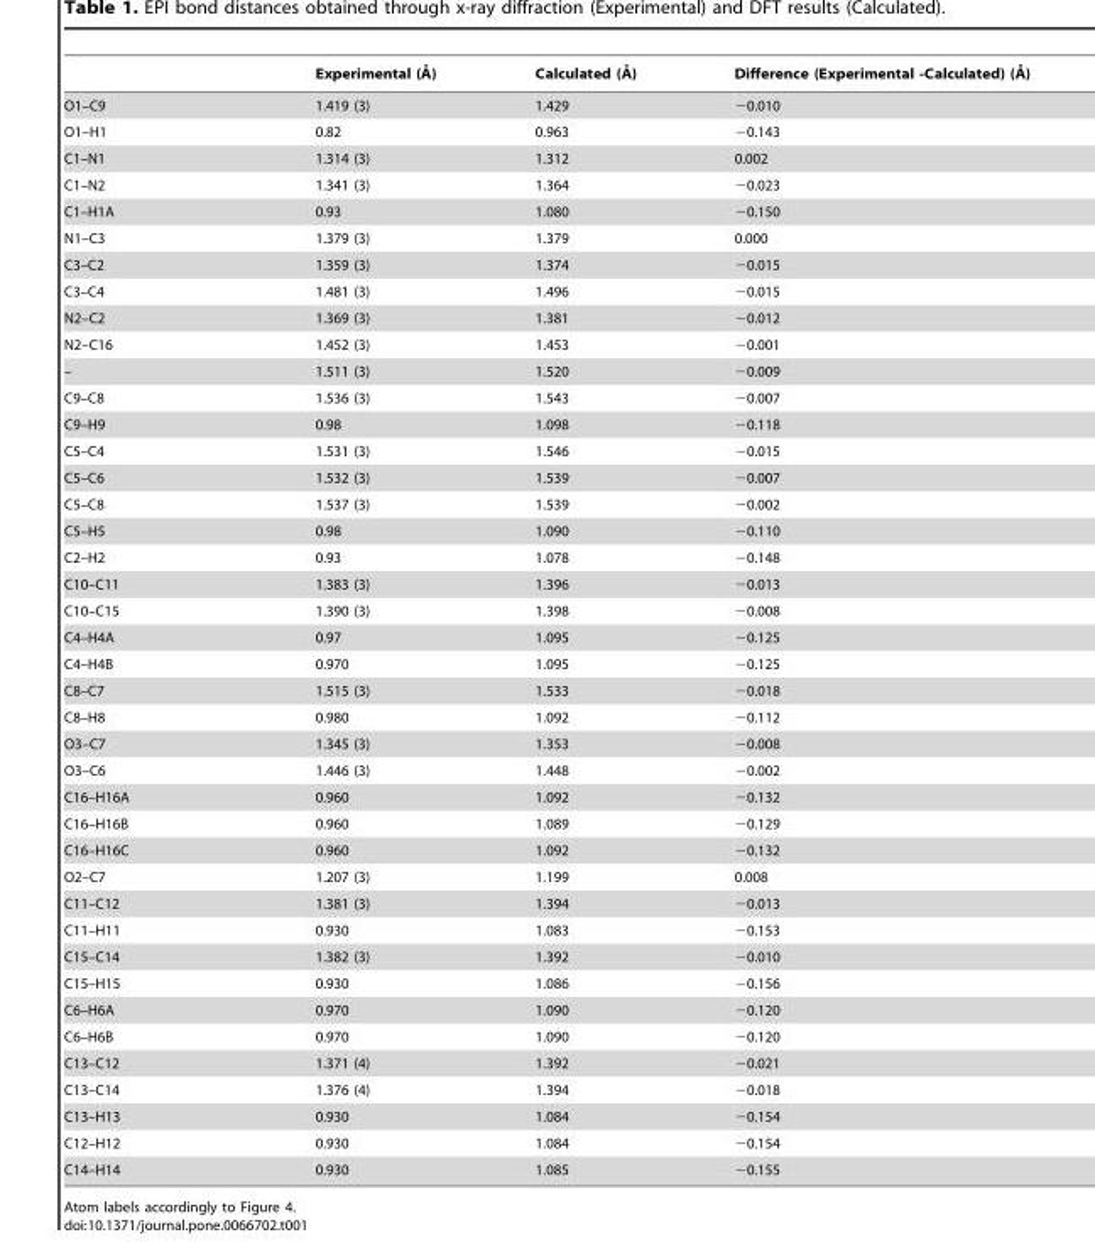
<table><thead><tr><td></td><td>Experimental (A˚)</td><td>Calculated (A˚ )</td><td>Difference (Experimental -Calculated) (A˚ )</td></tr></thead><tbody><tr><td>O1–C9</td><td>1.419 (3)</td><td>1.429</td><td>−0.010</td></tr><tr><td>O1–H1</td><td>0.82</td><td>0.963</td><td>−0.143</td></tr><tr><td>C1–N1</td><td>1.314 (3)</td><td>1.312</td><td>0.002</td></tr><tr><td>C1–N2</td><td>1.341 (3)</td><td>1.364</td><td>−0.023</td></tr><tr><td>C1–H1A</td><td>0.93</td><td>1.080</td><td>−0.150</td></tr><tr><td>N1–C3</td><td>1.379 (3)</td><td>1.379</td><td>0.000</td></tr><tr><td>C3–C2</td><td>1.359 (3)</td><td>1.374</td><td>−0.015</td></tr><tr><td>C3–C4</td><td>1.481 (3)</td><td>1.496</td><td>−0.015</td></tr><tr><td>N2–C2</td><td>1.369 (3)</td><td>1.381</td><td>−0.012</td></tr><tr><td>N2–C16</td><td>1.452 (3)</td><td>1.453</td><td>−0.001</td></tr><tr><td>–</td><td>1.511 (3)</td><td>1.520</td><td>−0.009</td></tr><tr><td>C9–C8</td><td>1.536 (3)</td><td>1.543</td><td>−0.007</td></tr><tr><td>C9–H9</td><td>0.98</td><td>1.098</td><td>−0.118</td></tr><tr><td>C5–C4</td><td>1.531 (3)</td><td>1.546</td><td>−0.015</td></tr><tr><td>C5–C6</td><td>1.532 (3)</td><td>1.539</td><td>−0.007</td></tr><tr><td>C5–C8</td><td>1.537 (3)</td><td>1.539</td><td>−0.002</td></tr><tr><td>C5–H5</td><td>0.98</td><td>1.090</td><td>−0.110</td></tr><tr><td>C2–H2</td><td>0.93</td><td>1.078</td><td>−0.148</td></tr><tr><td>C10–C11</td><td>1.383 (3)</td><td>1.396</td><td>−0.013</td></tr><tr><td>C10–C15</td><td>1.390 (3)</td><td>1.398</td><td>−0.008</td></tr><tr><td>C4–H4A</td><td>0.97</td><td>1.095</td><td>−0.125</td></tr><tr><td>C4–H4B</td><td>0.970</td><td>1.095</td><td>−0.125</td></tr><tr><td>C8–C7</td><td>1.515 (3)</td><td>1.533</td><td>−0.018</td></tr><tr><td>C8–H8</td><td>0.980</td><td>1.092</td><td>−0.112</td></tr><tr><td>O3–C7</td><td>1.345 (3)</td><td>1.353</td><td>−0.008</td></tr><tr><td>O3–C6</td><td>1.446 (3)</td><td>1.448</td><td>−0.002</td></tr><tr><td>C16–H16A</td><td>0.960</td><td>1.092</td><td>−0.132</td></tr><tr><td>C16–H16B</td><td>0.960</td><td>1.089</td><td>−0.129</td></tr><tr><td>C16–H16C</td><td>0.960</td><td>1.092</td><td>−0.132</td></tr><tr><td>O2–C7</td><td>1.207 (3)</td><td>1.199</td><td>0.008</td></tr><tr><td>C11–C12</td><td>1.381 (3)</td><td>1.394</td><td>−0.013</td></tr><tr><td>C11–H11</td><td>0.930</td><td>1.083</td><td>−0.153</td></tr><tr><td>C15–C14</td><td>1.382 (3)</td><td>1.392</td><td>−0.010</td></tr><tr><td>C15–H15</td><td>0.930</td><td>1.086</td><td>−0.156</td></tr><tr><td>C6–H6A</td><td>0.970</td><td>1.090</td><td>−0.120</td></tr><tr><td>C6–H6B</td><td>0.970</td><td>1.090</td><td>−0.120</td></tr><tr><td>C13–C12</td><td>1.371 (4)</td><td>1.392</td><td>−0.021</td></tr><tr><td>C13–C14</td><td>1.376 (4)</td><td>1.394</td><td>−0.018</td></tr><tr><td>C13–H13</td><td>0.930</td><td>1.084</td><td>−0.154</td></tr><tr><td>C12–H12</td><td>0.930</td><td>1.084</td><td>−0.154</td></tr><tr><td>C14–H14</td><td>0.930</td><td>1.085</td><td>−0.155</td></tr></tbody></table>